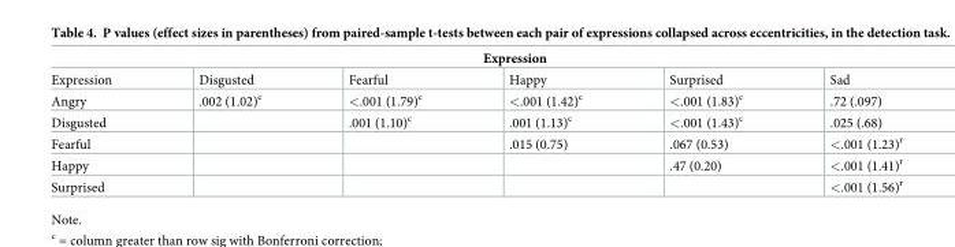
<table><thead><tr><td colspan="6">Expression</td></tr><tr><td>Expression</td><td>Disgusted</td><td>Fearful</td><td>Happy</td><td>Surprised</td><td>Sad</td></tr></thead><tbody><tr><td>Angry</td><td>.002 (1.02)<sup>c</sup></td><td>&lt;.001 (1.79)<sup>c</sup></td><td>&lt;.001 (1.42)<sup>c</sup></td><td>&lt;.001 (1.83)<sup>c</sup></td><td>.72 (.097)</td></tr><tr><td>Disgusted</td><td></td><td>.001 (1.10)<sup>c</sup></td><td>.001 (1.13)<sup>c</sup></td><td>&lt;.001 (1.43)<sup>c</sup></td><td>.025 (.68)</td></tr><tr><td>Fearful</td><td></td><td></td><td>.015 (0.75)</td><td>.067 (0.53)</td><td>&lt;.001 (1.23)<sup>r</sup></td></tr><tr><td>Happy</td><td></td><td></td><td></td><td>.47 (0.20)</td><td>&lt;.001 (1.41)<sup>r</sup></td></tr><tr><td>Surprised</td><td></td><td></td><td></td><td></td><td>&lt;.001 (1.56)<sup>r</sup></td></tr></tbody></table>